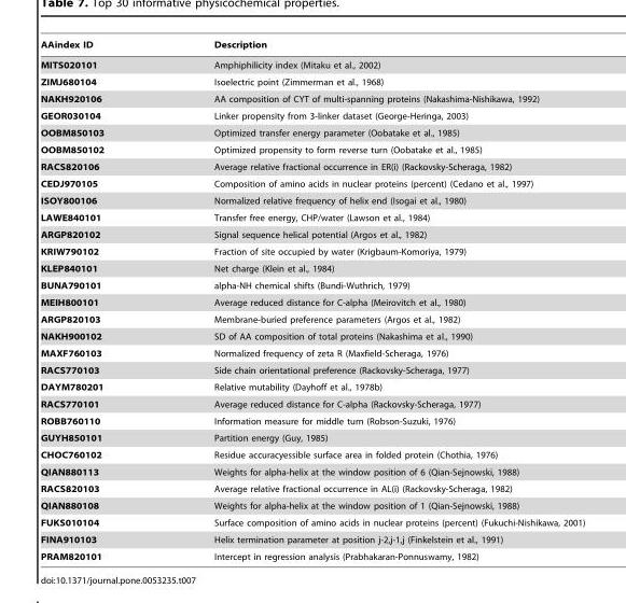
<table><thead><tr><td>AAindex ID</td><td>Description</td></tr></thead><tbody><tr><td>MITS020101</td><td>Amphiphilicity index (Mitaku et al., 2002)</td></tr><tr><td>ZIMJ680104</td><td>Isoelectric point (Zimmerman et al., 1968)</td></tr><tr><td>NAKH920106</td><td>AA composition of CYT of multi-spanning proteins (Nakashima-Nishikawa, 1992)</td></tr><tr><td>GEOR030104</td><td>Linker propensity from 3-linker dataset (George-Heringa, 2003)</td></tr><tr><td>OOBM850103</td><td>Optimized transfer energy parameter (Oobatake et al., 1985)</td></tr><tr><td>OOBM850102</td><td>Optimized propensity to form reverse turn (Oobatake et al., 1985)</td></tr><tr><td>RACS820106</td><td>Average relative fractional occurrence in ER(i) (Rackovsky-Scheraga, 1982)</td></tr><tr><td>CEDJ970105</td><td>Composition of amino acids in nuclear proteins (percent) (Cedano et al., 1997)</td></tr><tr><td>ISOY800106</td><td>Normalized relative frequency of helix end (Isogai et al., 1980)</td></tr><tr><td>LAWE840101</td><td>Transfer free energy, CHP/water (Lawson et al., 1984)</td></tr><tr><td>ARGP820102</td><td>Signal sequence helical potential (Argos et al., 1982)</td></tr><tr><td>KRIW790102</td><td>Fraction of site occupied by water (Krigbaum-Komoriya, 1979)</td></tr><tr><td>KLEP840101</td><td>Net charge (Klein et al., 1984)</td></tr><tr><td>BUNA790101</td><td>alpha-NH chemical shifts (Bundi-Wuthrich, 1979)</td></tr><tr><td>MEIH800101</td><td>Average reduced distance for C-alpha (Meirovitch et al., 1980)</td></tr><tr><td>ARGP820103</td><td>Membrane-buried preference parameters (Argos et al., 1982)</td></tr><tr><td>NAKH900102</td><td>SD of AA composition of total proteins (Nakashima et al., 1990)</td></tr><tr><td>MAXF760103</td><td>Normalized frequency of zeta R (Maxfield-Scheraga, 1976)</td></tr><tr><td>RACS770103</td><td>Side chain orientational preference (Rackovsky-Scheraga, 1977)</td></tr><tr><td>DAYM780201</td><td>Relative mutability (Dayhoff et al., 1978b)</td></tr><tr><td>RACS770101</td><td>Average reduced distance for C-alpha (Rackovsky-Scheraga, 1977)</td></tr><tr><td>ROBB760110</td><td>Information measure for middle turn (Robson-Suzuki, 1976)</td></tr><tr><td>GUYH850101</td><td>Partition energy (Guy, 1985)</td></tr><tr><td>CHOC760102</td><td>Residue accuracyessible surface area in folded protein (Chothia, 1976)</td></tr><tr><td>QIAN880113</td><td>Weights for alpha-helix at the window position of 6 (Qian-Sejnowski, 1988)</td></tr><tr><td>RACS820103</td><td>Average relative fractional occurrence in AL(i) (Rackovsky-Scheraga, 1982)</td></tr><tr><td>QIAN880108</td><td>Weights for alpha-helix at the window position of 1 (Qian-Sejnowski, 1988)</td></tr><tr><td>FUKS010104</td><td>Surface composition of amino acids in nuclear proteins (percent) (Fukuchi-Nishikawa, 2001)</td></tr><tr><td>FINA910103</td><td>Helix termination parameter at position j-2,j-1,j (Finkelstein et al., 1991)</td></tr><tr><td>PRAM820101</td><td>Intercept in regression analysis (Prabhakaran-Ponnuswamy, 1982)</td></tr></tbody></table>